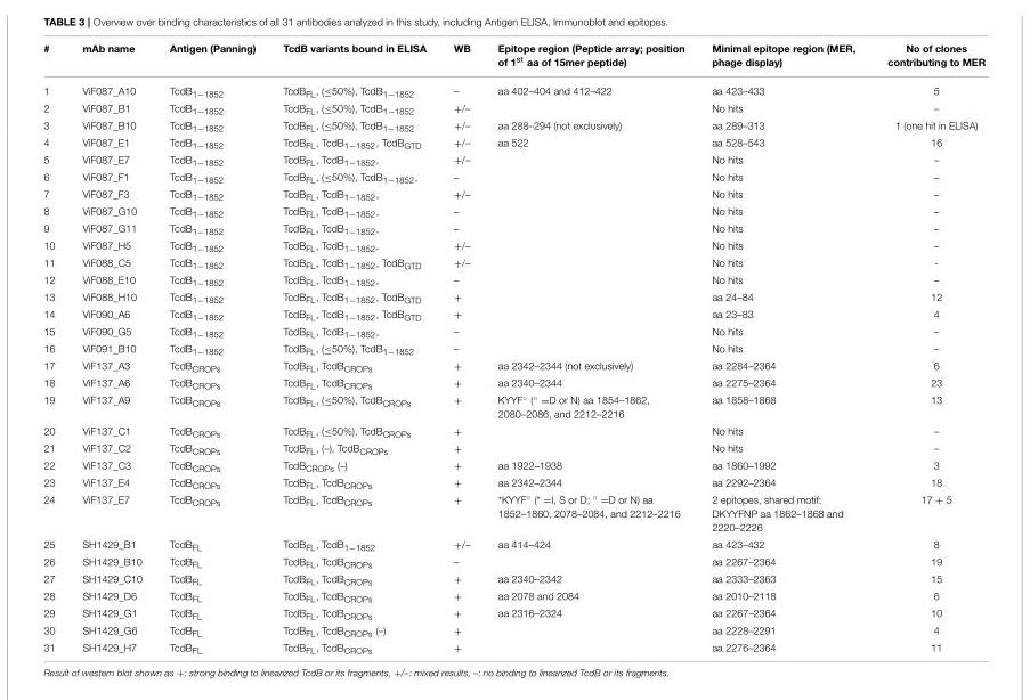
<table><thead><tr><td>#</td><td>mAb name</td><td>Antigen (Panning)</td><td>TcdB variants bound in ELISA</td><td>WB</td><td>Epitope region (Peptide array; position of 1<sup>st</sup> aa of 15mer peptide)</td><td>Minimal epitope region (MER, phage display)</td><td>No of clones contributing to MER</td></tr></thead><tbody><tr><td>1</td><td>ViF087_A10</td><td>TcdB<sub>1−1852</sub></td><td>TcdB<sub>FL</sub>, (≤50%), TcdB<sub>1−1852</sub></td><td>–</td><td>aa 402–404 and 412–422</td><td>aa 423–433</td><td>5</td></tr><tr><td>2</td><td>ViF087_B1</td><td>TcdB<sub>1−1852</sub></td><td>TcdB<sub>FL</sub>, (≤50%), TcdB<sub>1−1852</sub></td><td>+/–</td><td></td><td>No hits</td><td>–</td></tr><tr><td>3</td><td>ViF087_B10</td><td>TcdB<sub>1−1852</sub></td><td>TcdB<sub>FL</sub>, (≤50%), TcdB<sub>1−1852</sub></td><td>+/–</td><td>aa 288–294 (not exclusively)</td><td>aa 289–313</td><td>1 (one hit in ELISA)</td></tr><tr><td>4</td><td>ViF087_E1</td><td>TcdB<sub>1−1852</sub></td><td>TcdB<sub>FL</sub>, TcdB<sub>1−1852</sub>, TcdB<sub>GTD</sub></td><td>+/–</td><td>aa 522</td><td>aa 528–543</td><td>16</td></tr><tr><td>5</td><td>ViF087_E7</td><td>TcdB<sub>1−1852</sub></td><td>TcdB<sub>FL</sub>, TcdB<sub>1−1852,</sub></td><td>+/–</td><td></td><td>No hits</td><td>–</td></tr><tr><td>6</td><td>ViF087_F1</td><td>TcdB<sub>1−1852</sub></td><td>TcdB<sub>FL</sub>, (≤50%), TcdB<sub>1−1852,</sub></td><td>–</td><td></td><td>No hits</td><td>–</td></tr><tr><td>7</td><td>ViF087_F3</td><td>TcdB<sub>1−1852</sub></td><td>TcdB<sub>FL</sub>, TcdB<sub>1−1852,</sub></td><td>+/–</td><td></td><td>No hits</td><td>–</td></tr><tr><td>8</td><td>ViF087_G10</td><td>TcdB<sub>1−1852</sub></td><td>TcdB<sub>FL</sub>, TcdB<sub>1−1852,</sub></td><td>–</td><td></td><td>No hits</td><td>–</td></tr><tr><td>9</td><td>ViF087_G11</td><td>TcdB<sub>1−1852</sub></td><td>TcdB<sub>FL</sub>, TcdB<sub>1−1852,</sub></td><td>–</td><td></td><td>No hits</td><td>–</td></tr><tr><td>10</td><td>ViF087_H5</td><td>TcdB<sub>1−1852</sub></td><td>TcdB<sub>FL</sub>, TcdB<sub>1−1852,</sub></td><td>+/–</td><td></td><td>No hits</td><td>–</td></tr><tr><td>11</td><td>ViF088_C5</td><td>TcdB<sub>1−1852</sub></td><td>TcdB<sub>FL</sub>, TcdB<sub>1−1852</sub>, TcdB<sub>GTD</sub></td><td>+/–</td><td></td><td>No hits</td><td>-</td></tr><tr><td>12</td><td>ViF088_E10</td><td>TcdB<sub>1−1852</sub></td><td>TcdB<sub>FL</sub>, TcdB<sub>1−1852,</sub></td><td>–</td><td></td><td>No hits</td><td>–</td></tr><tr><td>13</td><td>ViF088_H10</td><td>TcdB<sub>1−1852</sub></td><td>TcdB<sub>FL</sub>, TcdB<sub>1−1852</sub>, TcdB<sub>GTD</sub></td><td>+</td><td></td><td>aa 24–84</td><td>12</td></tr><tr><td>14</td><td>ViF090_A6</td><td>TcdB<sub>1−1852</sub></td><td>TcdB<sub>FL</sub>, TcdB<sub>1−1852</sub>, TcdB<sub>GTD</sub></td><td>+</td><td></td><td>aa 23–83</td><td>4</td></tr><tr><td>15</td><td>ViF090_G5</td><td>TcdB<sub>1−1852</sub></td><td>TcdB<sub>FL</sub>, TcdB<sub>1−1852,</sub></td><td>–</td><td></td><td>No hits</td><td>–</td></tr><tr><td>16</td><td>ViF091_B10</td><td>TcdB<sub>1−1852</sub></td><td>TcdB<sub>FL</sub>, (≤50%), TcdB<sub>1−1852</sub></td><td>–</td><td></td><td>No hits</td><td>–</td></tr><tr><td>17</td><td>ViF137_A3</td><td>TcdB<sub>CROPs</sub></td><td>TcdB<sub>FL</sub>, TcdB<sub>CROPs</sub></td><td>+</td><td>aa 2342–2344 (not exclusively)</td><td>aa 2284–2364</td><td>6</td></tr><tr><td>18</td><td>ViF137_A6</td><td>TcdB<sub>CROPs</sub></td><td>TcdB<sub>FL</sub>, TcdB<sub>CROPs</sub></td><td>+</td><td>aa 2340–2344</td><td>aa 2275–2364</td><td>23</td></tr><tr><td>19</td><td>ViF137_A9</td><td>TcdB<sub>CROPs</sub></td><td>TcdB<sub>FL</sub>, (≤50%), TcdB<sub>CROPs</sub></td><td>+</td><td>KYYF◦ (◦ =D or N) aa 1854–1862, 2080–2086, and 2212–2216</td><td>aa 1858–1868</td><td>13</td></tr><tr><td>20</td><td>ViF137_C1</td><td>TcdB<sub>CROPs</sub></td><td>TcdB<sub>FL</sub>, (≤50%), TcdB<sub>CROPs</sub></td><td>+</td><td></td><td>No hits</td><td>–</td></tr><tr><td>21</td><td>ViF137_C2</td><td>TcdB<sub>CROPs</sub></td><td>TcdB<sub>FL</sub>, (–), TcdB<sub>CROPs</sub></td><td>+</td><td></td><td>No hits</td><td>–</td></tr><tr><td>22</td><td>ViF137_C3</td><td>TcdB<sub>CROPs</sub></td><td>TcdB<sub>CROPs</sub> (–)</td><td>+</td><td>aa 1922–1938</td><td>aa 1860–1992</td><td>3</td></tr><tr><td>23</td><td>ViF137_E4</td><td>TcdB<sub>CROPs</sub></td><td>TcdB<sub>FL</sub>, TcdB<sub>CROPs</sub></td><td>+</td><td>aa 2342–2344</td><td>aa 2292–2364</td><td>18</td></tr><tr><td>24</td><td>ViF137_E7</td><td>TcdB<sub>CROPs</sub></td><td>TcdB<sub>FL</sub>, TcdB<sub>CROPs</sub></td><td>+</td><td>*KYYF◦ (* =I, S or D; ◦ =D or N) aa 1852–1860, 2078–2084, and 2212–2216</td><td>2 epitopes, shared motif: DKYYFNP aa 1862–1868 and 2220–2226</td><td>17 + 5</td></tr><tr><td>25</td><td>SH1429_B1</td><td>TcdB<sub>FL</sub></td><td>TcdB<sub>FL</sub>, TcdB<sub>1−1852</sub></td><td>+/–</td><td>aa 414–424</td><td>aa 423–432</td><td>8</td></tr><tr><td>26</td><td>SH1429_B10</td><td>TcdB<sub>FL</sub></td><td>TcdB<sub>FL</sub>, TcdB<sub>CROPs</sub></td><td>–</td><td></td><td>aa 2267–2364</td><td>19</td></tr><tr><td>27</td><td>SH1429_C10</td><td>TcdB<sub>FL</sub></td><td>TcdB<sub>FL</sub>, TcdB<sub>CROPs</sub></td><td>+</td><td>aa 2340–2342</td><td>aa 2333–2363</td><td>15</td></tr><tr><td>28</td><td>SH1429_D6</td><td>TcdB<sub>FL</sub></td><td>TcdB<sub>FL</sub>, TcdB<sub>CROPs</sub></td><td>+</td><td>aa 2078 and 2084</td><td>aa 2010–2118</td><td>6</td></tr><tr><td>29</td><td>SH1429_G1</td><td>TcdB<sub>FL</sub></td><td>TcdB<sub>FL</sub>, TcdB<sub>CROPs</sub></td><td>+</td><td>aa 2316–2324</td><td>aa 2267–2364</td><td>10</td></tr><tr><td>30</td><td>SH1429_G6</td><td>TcdB<sub>FL</sub></td><td>TcdB<sub>FL</sub>, TcdB<sub>CROPs</sub> (–)</td><td>+</td><td></td><td>aa 2228–2291</td><td>4</td></tr><tr><td>31</td><td>SH1429_H7</td><td>TcdB<sub>FL</sub></td><td>TcdB<sub>FL</sub>, TcdB<sub>CROPs</sub></td><td>+</td><td></td><td>aa 2276–2364</td><td>11</td></tr></tbody></table>